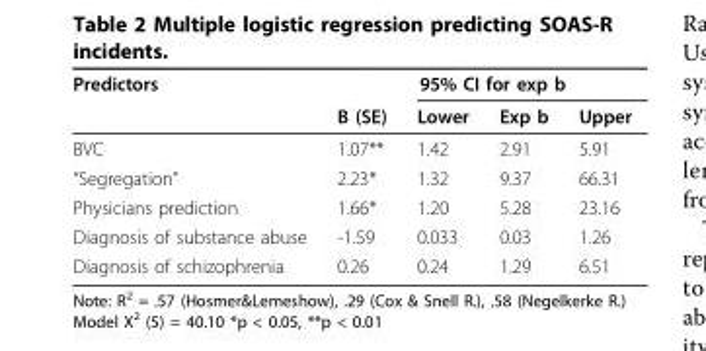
<table><thead><tr><td rowspan="2">Predictors</td><td colspan="4">95% CI for exp b</td></tr><tr><td>B (SE)</td><td>Lower</td><td>Exp b</td><td>Upper</td></tr></thead><tbody><tr><td>BVC</td><td>1.07**</td><td>1.42</td><td>2.91</td><td>5.91</td></tr><tr><td>“Segregation”</td><td>2.23*</td><td>1.32</td><td>9.37</td><td>66.31</td></tr><tr><td>Physicians prediction</td><td>1.66*</td><td>1.20</td><td>5.28</td><td>23.16</td></tr><tr><td>Diagnosis of substance abuse</td><td>-1.59</td><td>0.033</td><td>0.03</td><td>1.26</td></tr><tr><td>Diagnosis of schizophrenia</td><td>0.26</td><td>0.24</td><td>1.29</td><td>6.51</td></tr></tbody></table>